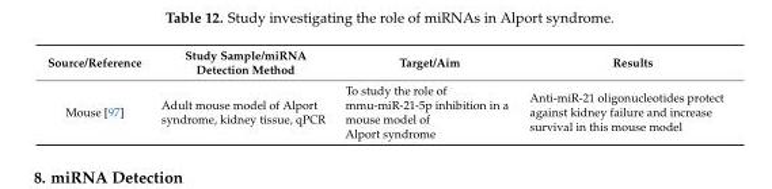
<table><thead><tr><td>Source/Reference</td><td>Study Sample/miRNA Detection Method</td><td>Target/Aim</td><td>Results</td></tr></thead><tbody><tr><td>Mouse [97]</td><td>Adult mouse model of Alport syndrome, kidney tissue, qPCR</td><td>To study the role of mmu-miR-21-5p inhibition in a mouse model of Alport syndrome</td><td>Anti-miR-21 oligonucleotides protect against kidney failure and increase survival in this mouse model</td></tr></tbody></table>